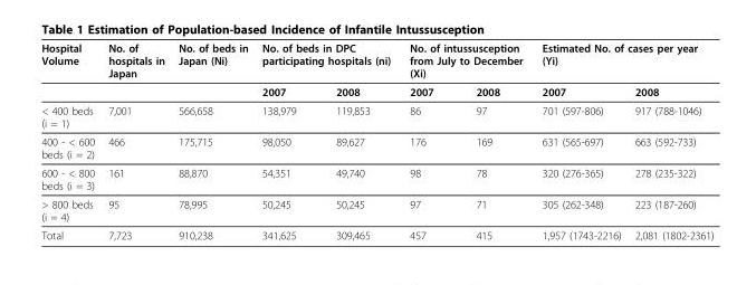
<table><thead><tr><td rowspan="2">Hospital Volume</td><td rowspan="2">No. of hospitals in Japan</td><td rowspan="2">No. of beds in Japan (Ni)</td><td colspan="2">No. of beds in DPC participating hospitals (ni)</td><td colspan="2">No. of intussusception from July to December (Xi)</td><td colspan="2">Estimated No. of cases per year (Yi)</td></tr><tr><td>2007</td><td>2008</td><td>2007</td><td>2008</td><td>2007</td><td>2008</td></tr></thead><tbody><tr><td>&lt; 400 beds (i = 1)</td><td>7,001</td><td>566,658</td><td>138,979</td><td>119,853</td><td>86</td><td>97</td><td>701 (597-806)</td><td>917 (788-1046)</td></tr><tr><td>400 - &lt; 600 beds (i = 2)</td><td>466</td><td>175,715</td><td>98,050</td><td>89,627</td><td>176</td><td>169</td><td>631 (565-697)</td><td>663 (592-733)</td></tr><tr><td>600 - &lt; 800 beds (i = 3)</td><td>161</td><td>88,870</td><td>54,351</td><td>49,740</td><td>98</td><td>78</td><td>320 (276-365)</td><td>278 (235-322)</td></tr><tr><td>&gt; 800 beds (i = 4)</td><td>95</td><td>78,995</td><td>50,245</td><td>50,245</td><td>97</td><td>71</td><td>305 (262-348)</td><td>223 (187-260)</td></tr><tr><td>Total</td><td>7,723</td><td>910,238</td><td>341,625</td><td>309,465</td><td>457</td><td>415</td><td>1,957 (1743-2216)</td><td>2,081 (1802-2361)</td></tr></tbody></table>